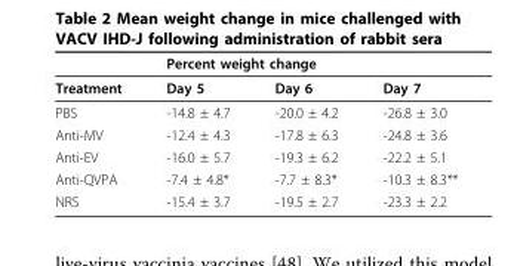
<table><thead><tr><td rowspan="2">Treatment</td><td colspan="3">Percent weight change</td></tr><tr><td>Day 5</td><td>Day 6</td><td>Day 7</td></tr></thead><tbody><tr><td>PBS</td><td>-14.8 ± 4.7</td><td>-20.0 ± 4.2</td><td>-26.8 ± 3.0</td></tr><tr><td>Anti-MV</td><td>-12.4 ± 4.3</td><td>-17.8 ± 6.3</td><td>-24.8 ± 3.6</td></tr><tr><td>Anti-EV</td><td>-16.0 ± 5.7</td><td>-19.3 ± 6.2</td><td>-22.2 ± 5.1</td></tr><tr><td>Anti-QVPA</td><td>-7.4 ± 4.8*</td><td>-7.7 ± 8.3*</td><td>-10.3 ± 8.3**</td></tr><tr><td>NRS</td><td>-15.4 ± 3.7</td><td>-19.5 ± 2.7</td><td>-23.3 ± 2.2</td></tr></tbody></table>